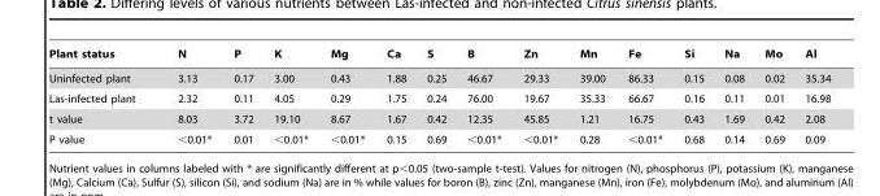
<table><thead><tr><td>Plant status</td><td>N</td><td>P</td><td>K</td><td>Mg</td><td>Ca</td><td>S</td><td>B</td><td>Zn</td><td>Mn</td><td>Fe</td><td>Si</td><td>Na</td><td>Mo</td><td>Al</td></tr></thead><tbody><tr><td>Uninfected plant</td><td>3.13</td><td>0.17</td><td>3.00</td><td>0.43</td><td>1.88</td><td>0.25</td><td>46.67</td><td>29.33</td><td>39.00</td><td>86.33</td><td>0.15</td><td>0.08</td><td>0.02</td><td>35.34</td></tr><tr><td>Las-infected plant</td><td>2.32</td><td>0.11</td><td>4.05</td><td>0.29</td><td>1.75</td><td>0.24</td><td>76.00</td><td>19.67</td><td>35.33</td><td>66.67</td><td>0.16</td><td>0.11</td><td>0.01</td><td>16.98</td></tr><tr><td>t value</td><td>8.03</td><td>3.72</td><td>19.10</td><td>8.67</td><td>1.67</td><td>0.42</td><td>12.35</td><td>45.85</td><td>1.21</td><td>16.75</td><td>0.43</td><td>1.69</td><td>0.42</td><td>2.08</td></tr><tr><td>P value</td><td>&lt;0.01*</td><td>0.01</td><td>&lt;0.01*</td><td>&lt;0.01*</td><td>0.15</td><td>0.69</td><td>&lt;0.01*</td><td>&lt;0.01*</td><td>0.28</td><td>&lt;0.01*</td><td>0.68</td><td>0.14</td><td>0.69</td><td>0.09</td></tr></tbody></table>